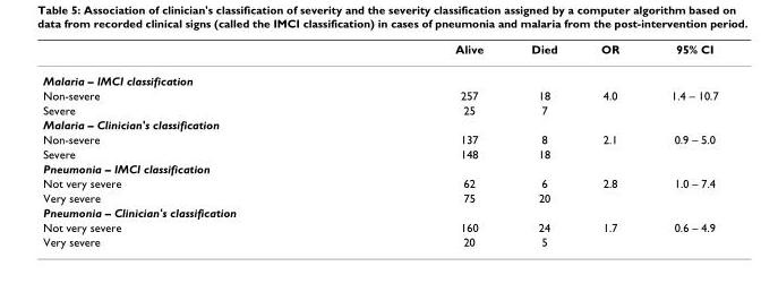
<table><thead><tr><td></td><td>Alive</td><td>Died</td><td>OR</td><td>95% CI</td></tr></thead><tbody><tr><td colspan="5">Malaria – IMCI classification</td></tr><tr><td>Non-severe</td><td>257</td><td>18</td><td>4.0</td><td>1.4 – 10.7</td></tr><tr><td>Severe</td><td>25</td><td>7</td><td></td><td></td></tr><tr><td colspan="5">Malaria – Clinician&#x27;s classification</td></tr><tr><td>Non-severe</td><td>137</td><td>8</td><td>2.1</td><td>0.9 – 5.0</td></tr><tr><td>Severe</td><td>148</td><td>18</td><td></td><td></td></tr><tr><td colspan="5">Pneumonia – IMCI classification</td></tr><tr><td>Not very severe</td><td>62</td><td>6</td><td>2.8</td><td>1.0 – 7.4</td></tr><tr><td>Very severe</td><td>75</td><td>20</td><td></td><td></td></tr><tr><td colspan="5">Pneumonia – Clinician&#x27;s classification</td></tr><tr><td>Not very severe</td><td>160</td><td>24</td><td>1.7</td><td>0.6 – 4.9</td></tr><tr><td>Very severe</td><td>20</td><td>5</td><td></td><td></td></tr></tbody></table>